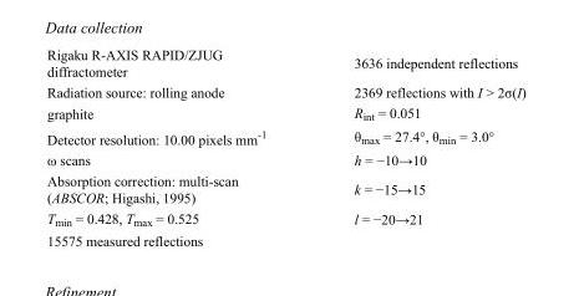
<table><tbody><tr><td>Rigaku R-AXIS RAPID/ZJUG diffractometer</td><td>3636 independent reflections</td></tr><tr><td>Radiation source: rolling anode</td><td>2369 reflections with I &gt; 2σ(I)</td></tr><tr><td>graphite</td><td>R<sub>int</sub> = 0.051</td></tr><tr><td>Detector resolution: 10.00 pixels mm<sup>-1</sup></td><td>θ<sub>max</sub> = 27.4°, θ<sub>min</sub> = 3.0°</td></tr><tr><td>ω scans</td><td>h = −10→10</td></tr><tr><td>Absorption correction: multi-scan (ABSCOR; Higashi, 1995)</td><td>k = −15→15</td></tr><tr><td>T<sub>min</sub> = 0.428, T<sub>max</sub> = 0.525</td><td>l = −20→21</td></tr><tr><td>15575 measured reflections</td><td></td></tr></tbody></table>